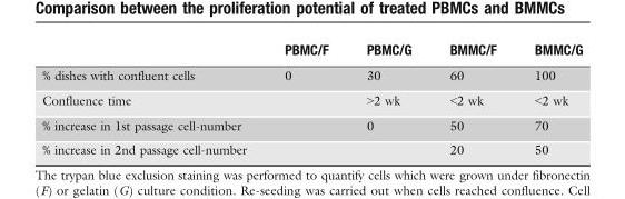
<table><thead><tr><td></td><td>PBMC/F</td><td>PBMC/G</td><td>BMMC/F</td><td>BMMC/G</td></tr></thead><tbody><tr><td>% dishes with confluent cells</td><td>0</td><td>30</td><td>60</td><td>100</td></tr><tr><td>Confluence time</td><td></td><td>&gt;2 wk</td><td>&lt;2 wk</td><td>&lt;2 wk</td></tr><tr><td>% increase in 1st passage cell-number</td><td></td><td>0</td><td>50</td><td>70</td></tr><tr><td>% increase in 2nd passage cell-number</td><td></td><td></td><td>20</td><td>50</td></tr></tbody></table>